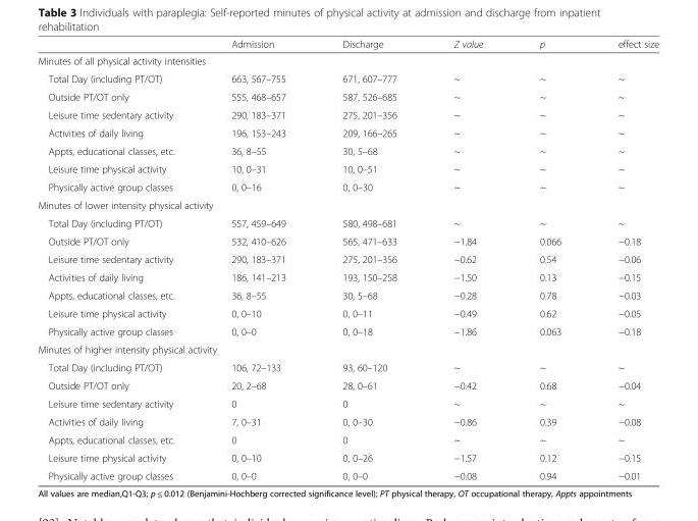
<table><thead><tr><td></td><td>Admission</td><td>Discharge</td><td>Z value</td><td>p</td><td>effect size</td></tr></thead><tbody><tr><td colspan="6">Minutes of all physical activity intensities</td></tr><tr><td>Total Day (including PT/OT)</td><td>663, 567–755</td><td>671, 607–777</td><td>~</td><td>~</td><td>~</td></tr><tr><td>Outside PT/OT only</td><td>555, 468–657</td><td>587, 526–685</td><td>~</td><td>~</td><td>~</td></tr><tr><td>Leisure time sedentary activity</td><td>290, 183–371</td><td>275, 201–356</td><td>~</td><td>~</td><td>~</td></tr><tr><td>Activities of daily living</td><td>196, 153–243</td><td>209, 166–265</td><td>~</td><td>~</td><td>~</td></tr><tr><td>Appts, educational classes, etc.</td><td>36, 8–55</td><td>30, 5–68</td><td>~</td><td>~</td><td>~</td></tr><tr><td>Leisure time physical activity</td><td>10, 0–31</td><td>10, 0–51</td><td>~</td><td>~</td><td>~</td></tr><tr><td>Physically active group classes</td><td>0, 0–16</td><td>0, 0–30</td><td>~</td><td>~</td><td>~</td></tr><tr><td colspan="6">Minutes of lower intensity physical activity</td></tr><tr><td>Total Day (including PT/OT)</td><td>557, 459–649</td><td>580, 498–681</td><td>~</td><td>~</td><td>~</td></tr><tr><td>Outside PT/OT only</td><td>532, 410–626</td><td>565, 471–633</td><td>−1.84</td><td>0.066</td><td>−0.18</td></tr><tr><td>Leisure time sedentary activity</td><td>290, 183–371</td><td>275, 201–356</td><td>−0.62</td><td>0.54</td><td>−0.06</td></tr><tr><td>Activities of daily living</td><td>186, 141–213</td><td>193, 150–258</td><td>−1.50</td><td>0.13</td><td>−0.15</td></tr><tr><td>Appts, educational classes, etc.</td><td>36, 8–55</td><td>30, 5–68</td><td>−0.28</td><td>0.78</td><td>−0.03</td></tr><tr><td>Leisure time physical activity</td><td>0, 0–10</td><td>0, 0–11</td><td>−0.49</td><td>0.62</td><td>−0.05</td></tr><tr><td>Physically active group classes</td><td>0, 0–0</td><td>0, 0–18</td><td>−1.86</td><td>0.063</td><td>−0.18</td></tr><tr><td colspan="6">Minutes of higher intensity physical activity</td></tr><tr><td>Total Day (including PT/OT)</td><td>106, 72–133</td><td>93, 60–120</td><td>~</td><td>~</td><td>~</td></tr><tr><td>Outside PT/OT only</td><td>20, 2–68</td><td>28, 0–61</td><td>−0.42</td><td>0.68</td><td>−0.04</td></tr><tr><td>Leisure time sedentary activity</td><td>0</td><td>0</td><td>~</td><td>~</td><td>~</td></tr><tr><td>Activities of daily living</td><td>7, 0–31</td><td>0, 0–30</td><td>−0.86</td><td>0.39</td><td>−0.08</td></tr><tr><td>Appts, educational classes, etc.</td><td>0</td><td>0</td><td>~</td><td>~</td><td>~</td></tr><tr><td>Leisure time physical activity</td><td>0, 0–10</td><td>0, 0–26</td><td>−1.57</td><td>0.12</td><td>−0.15</td></tr><tr><td>Physically active group classes</td><td>0, 0–0</td><td>0, 0–0</td><td>−0.08</td><td>0.94</td><td>−0.01</td></tr></tbody></table>